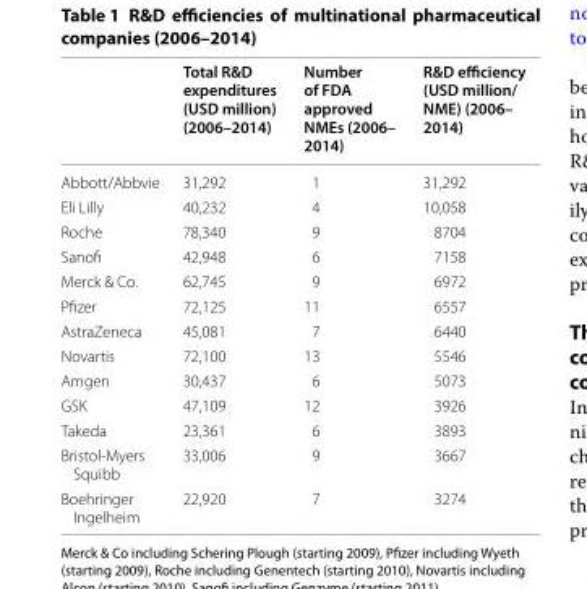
<table><thead><tr><td></td><td>Total R&amp;D expenditures (USD million) (2006–2014)</td><td>Number of FDA approved NMEs (2006– 2014)</td><td>R&amp;D efficiency (USD million/ NME) (2006– 2014)</td></tr></thead><tbody><tr><td>Abbott/Abbvie</td><td>31,292</td><td>1</td><td>31,292</td></tr><tr><td>Eli Lilly</td><td>40,232</td><td>4</td><td>10,058</td></tr><tr><td>Roche</td><td>78,340</td><td>9</td><td>8704</td></tr><tr><td>Sanofi</td><td>42,948</td><td>6</td><td>7158</td></tr><tr><td>Merck &amp; Co.</td><td>62,745</td><td>9</td><td>6972</td></tr><tr><td>Pfizer</td><td>72,125</td><td>11</td><td>6557</td></tr><tr><td>AstraZeneca</td><td>45,081</td><td>7</td><td>6440</td></tr><tr><td>Novartis</td><td>72,100</td><td>13</td><td>5546</td></tr><tr><td>Amgen</td><td>30,437</td><td>6</td><td>5073</td></tr><tr><td>GSK</td><td>47,109</td><td>12</td><td>3926</td></tr><tr><td>Takeda</td><td>23,361</td><td>6</td><td>3893</td></tr><tr><td>Bristol-Myers Squibb</td><td>33,006</td><td>9</td><td>3667</td></tr><tr><td>Boehringer Ingelheim</td><td>22,920</td><td>7</td><td>3274</td></tr></tbody></table>